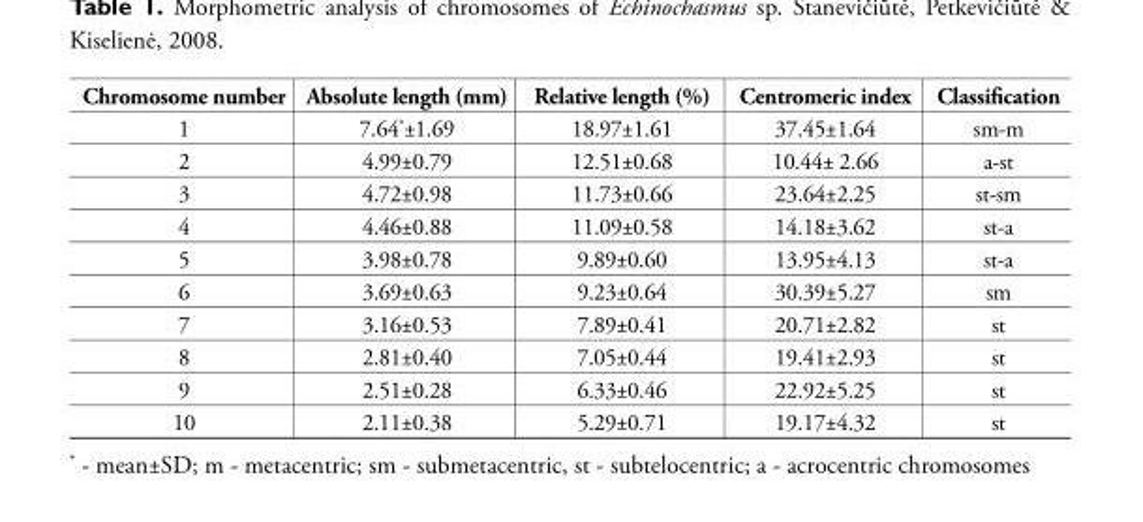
<table><thead><tr><td>Chromosome number</td><td>Absolute length (mm)</td><td>Relative length (%)</td><td>Centromeric index</td><td>Classification</td></tr></thead><tbody><tr><td>1</td><td>7.64*±1.69</td><td>18.97±1.61</td><td>37.45±1.64</td><td>sm-m</td></tr><tr><td>2</td><td>4.99±0.79</td><td>12.51±0.68</td><td>10.44± 2.66</td><td>a-st</td></tr><tr><td>3</td><td>4.72±0.98</td><td>11.73±0.66</td><td>23.64±2.25</td><td>st-sm</td></tr><tr><td>4</td><td>4.46±0.88</td><td>11.09±0.58</td><td>14.18±3.62</td><td>st-a</td></tr><tr><td>5</td><td>3.98±0.78</td><td>9.89±0.60</td><td>13.95±4.13</td><td>st-a</td></tr><tr><td>6</td><td>3.69±0.63</td><td>9.23±0.64</td><td>30.39±5.27</td><td>sm</td></tr><tr><td>7</td><td>3.16±0.53</td><td>7.89±0.41</td><td>20.71±2.82</td><td>st</td></tr><tr><td>8</td><td>2.81±0.40</td><td>7.05±0.44</td><td>19.41±2.93</td><td>st</td></tr><tr><td>9</td><td>2.51±0.28</td><td>6.33±0.46</td><td>22.92±5.25</td><td>st</td></tr><tr><td>10</td><td>2.11±0.38</td><td>5.29±0.71</td><td>19.17±4.32</td><td>st</td></tr></tbody></table>